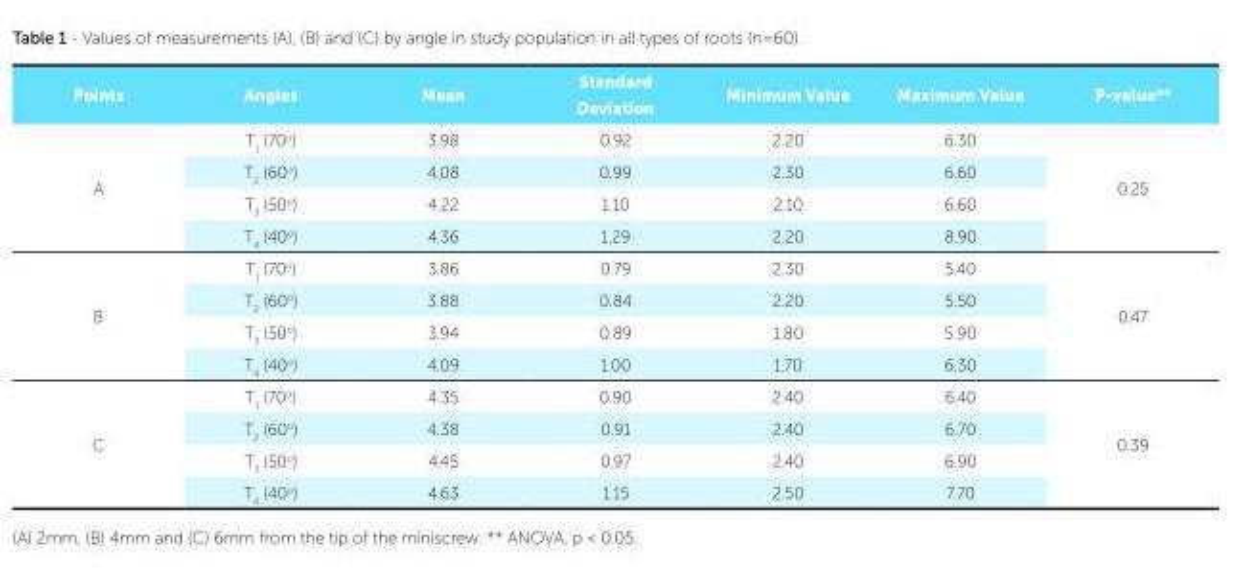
<table><tbody><tr><td>Points</td><td>Angles</td><td>Mean</td><td>Standard Deviation</td><td>Minimum Value</td><td>Maximum Value</td><td>P-value**</td></tr><tr><td rowspan="4">A</td><td>T<sub>1</sub> (70<sup>o</sup>)</td><td>3.98</td><td>0.92</td><td>2.20</td><td>6.30</td><td rowspan="4">0.25</td></tr><tr><td>T<sub>2</sub> (60<sup>o</sup>)</td><td>4.08</td><td>0.99</td><td>2.30</td><td>6.60</td></tr><tr><td>T<sub>3</sub> (50<sup>o</sup>)</td><td>4.22</td><td>1.10</td><td>2.10</td><td>6.60</td></tr><tr><td>T<sub>4</sub> (40<sup>o</sup>)</td><td>4.36</td><td>1.29</td><td>2.20</td><td>8.90</td></tr><tr><td rowspan="4">B</td><td>T<sub>1</sub> (70<sup>o</sup>)</td><td>3.86</td><td>0.79</td><td>2.30</td><td>5.40</td><td rowspan="4">0.47</td></tr><tr><td>T<sub>2</sub> (60<sup>o</sup>)</td><td>3.88</td><td>0.84</td><td>2.20</td><td>5.50</td></tr><tr><td>T<sub>3</sub> (50<sup>o</sup>)</td><td>3.94</td><td>0.89</td><td>1.80</td><td>5.90</td></tr><tr><td>T<sub>4</sub> (40<sup>o</sup>)</td><td>4.09</td><td>1.00</td><td>1.70</td><td>6.30</td></tr><tr><td rowspan="4">C</td><td>T<sub>1</sub> (70<sup>o</sup>)</td><td>4.35</td><td>0.90</td><td>2.40</td><td>6.40</td><td rowspan="4">0.39</td></tr><tr><td>T<sub>2</sub> (60<sup>o</sup>)</td><td>4.38</td><td>0.91</td><td>2.40</td><td>6.70</td></tr><tr><td>T<sub>3</sub> (50<sup>o</sup>)</td><td>4.45</td><td>0.97</td><td>2.40</td><td>6.90</td></tr><tr><td>T<sub>4</sub> (40<sup>o</sup>)</td><td>4.63</td><td>1.15</td><td>2.50</td><td>7.70</td></tr></tbody></table>